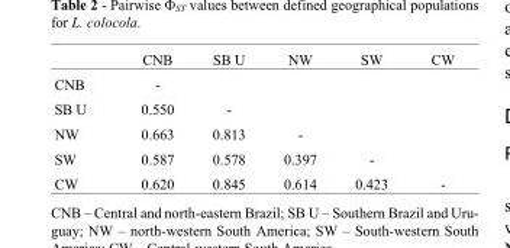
<table><thead><tr><td></td><td>CNB</td><td>SB U</td><td>NW</td><td>SW</td><td>CW</td></tr></thead><tbody><tr><td>CNB</td><td>-</td><td></td><td></td><td></td><td></td></tr><tr><td>SB U</td><td>0.550</td><td>-</td><td></td><td></td><td></td></tr><tr><td>NW</td><td>0.663</td><td>0.813</td><td>-</td><td></td><td></td></tr><tr><td>SW</td><td>0.587</td><td>0.578</td><td>0.397</td><td>-</td><td></td></tr><tr><td>CW</td><td>0.620</td><td>0.845</td><td>0.614</td><td>0.423</td><td>-</td></tr></tbody></table>